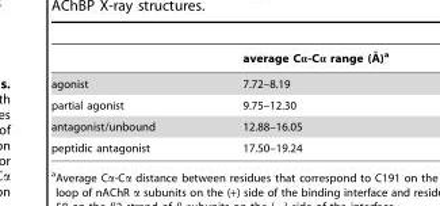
<table><thead><tr><td></td><td>average Ca-Ca range (A˚ )a</td></tr></thead><tbody><tr><td>agonist</td><td>7.72–8.19</td></tr><tr><td>partial agonist</td><td>9.75–12.30</td></tr><tr><td>antagonist/unbound</td><td>12.88–16.05</td></tr><tr><td>peptidic antagonist</td><td>17.50–19.24</td></tr></tbody></table>